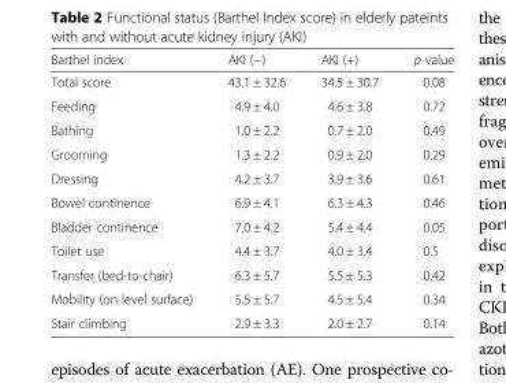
<table><thead><tr><td>Barthel index</td><td>AKI (−)</td><td>AKI (+)</td><td>p value</td></tr></thead><tbody><tr><td>Total score</td><td>43.1 ± 32.6</td><td>34.5 ± 30.7</td><td>0.08</td></tr><tr><td>Feeding</td><td>4.9 ± 4.0</td><td>4.6 ± 3.8</td><td>0.72</td></tr><tr><td>Bathing</td><td>1.0 ± 2.2</td><td>0.7 ± 2.0</td><td>0.49</td></tr><tr><td>Grooming</td><td>1.3 ± 2.2</td><td>0.9 ± 2.0</td><td>0.29</td></tr><tr><td>Dressing</td><td>4.2 ± 3.7</td><td>3.9 ± 3.6</td><td>0.61</td></tr><tr><td>Bowel continence</td><td>6.9 ± 4.1</td><td>6.3 ± 4.3</td><td>0.46</td></tr><tr><td>Bladder continence</td><td>7.0 ± 4.2</td><td>5.4 ± 4.4</td><td>0.05</td></tr><tr><td>Toilet use</td><td>4.4 ± 3.7</td><td>4.0 ± 3.4</td><td>0.5</td></tr><tr><td>Transfer (bed-to-chair)</td><td>6.3 ± 5.7</td><td>5.5 ± 5.3</td><td>0.42</td></tr><tr><td>Mobility (on level surface)</td><td>5.5 ± 5.7</td><td>4.5 ± 5.4</td><td>0.34</td></tr><tr><td>Stair climbing</td><td>2.9 ± 3.3</td><td>2.0 ± 2.7</td><td>0.14</td></tr></tbody></table>